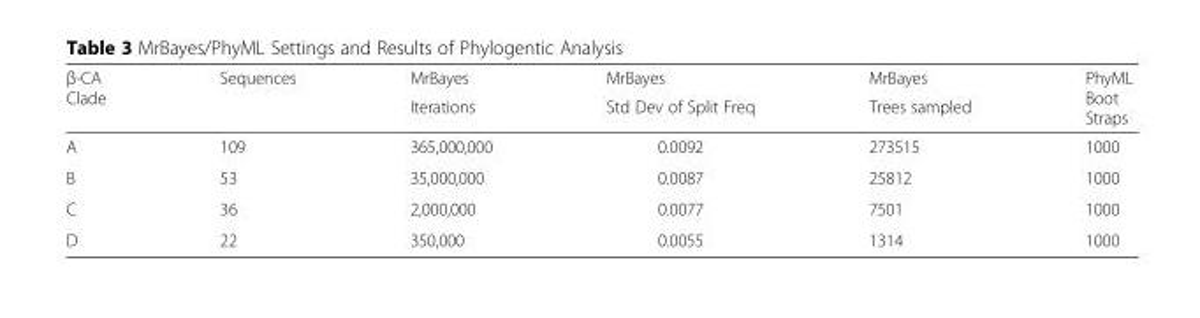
<table><thead><tr><td rowspan="2">β-CA Clade</td><td rowspan="2">Sequences</td><td rowspan="2">MrBayes Iterations</td><td rowspan="2">MrBayes Std Dev of Split Freq</td><td rowspan="2">MrBayes Trees sampled</td><td rowspan="2">PhyML Boot Straps</td></tr><tr></tr></thead><tbody><tr><td>A</td><td>109</td><td>365,000,000</td><td>0.0092</td><td>273515</td><td>1000</td></tr><tr><td>B</td><td>53</td><td>35,000,000</td><td>0.0087</td><td>25812</td><td>1000</td></tr><tr><td>C</td><td>36</td><td>2,000,000</td><td>0.0077</td><td>7501</td><td>1000</td></tr><tr><td>D</td><td>22</td><td>350,000</td><td>0.0055</td><td>1314</td><td>1000</td></tr></tbody></table>